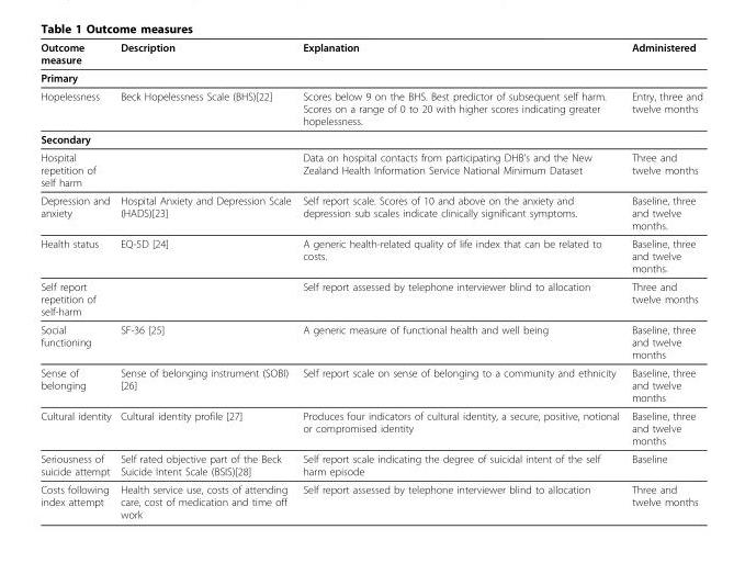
<table><thead><tr><td>Outcome measure</td><td>Description</td><td>Explanation</td><td>Administered</td></tr></thead><tbody><tr><td colspan="4">Primary</td></tr><tr><td>Hopelessness</td><td>Beck Hopelessness Scale (BHS)[22]</td><td>Scores below 9 on the BHS. Best predictor of subsequent self harm. Scores on a range of 0 to 20 with higher scores indicating greater hopelessness.</td><td>Entry, three and twelve months</td></tr><tr><td colspan="4">Secondary</td></tr><tr><td>Hospital repetition of self harm</td><td></td><td>Data on hospital contacts from participating DHB’s and the New Zealand Health Information Service National Minimum Dataset</td><td>Three and twelve months</td></tr><tr><td>Depression and anxiety</td><td>Hospital Anxiety and Depression Scale (HADS)[23]</td><td>Self report scale. Scores of 10 and above on the anxiety and depression sub scales indicate clinically significant symptoms.</td><td>Baseline, three and twelve months.</td></tr><tr><td>Health status</td><td>EQ-5D [24]</td><td>A generic health-related quality of life index that can be related to costs.</td><td>Baseline, three and twelve months.</td></tr><tr><td>Self report repetition of self-harm</td><td></td><td>Self report assessed by telephone interviewer blind to allocation</td><td>Three and twelve months</td></tr><tr><td>Social functioning</td><td>SF-36 [25]</td><td>A generic measure of functional health and well being</td><td>Baseline, three and twelve months</td></tr><tr><td>Sense of belonging</td><td>Sense of belonging instrument (SOBI) [26]</td><td>Self report scale on sense of belonging to a community and ethnicity</td><td>Baseline, three and twelve months</td></tr><tr><td>Cultural identity</td><td>Cultural identity profile [27]</td><td>Produces four indicators of cultural identity, a secure, positive, notional or compromised identity</td><td>Baseline, three and twelve months</td></tr><tr><td>Seriousness of suicide attempt</td><td>Self rated objective part of the Beck Suicide Intent Scale (BSIS)[28]</td><td>Self report scale indicating the degree of suicidal intent of the self harm episode</td><td>Baseline</td></tr><tr><td>Costs following index attempt</td><td>Health service use, costs of attending care, cost of medication and time off work</td><td>Self report assessed by telephone interviewer blind to allocation</td><td>Three and twelve months</td></tr></tbody></table>